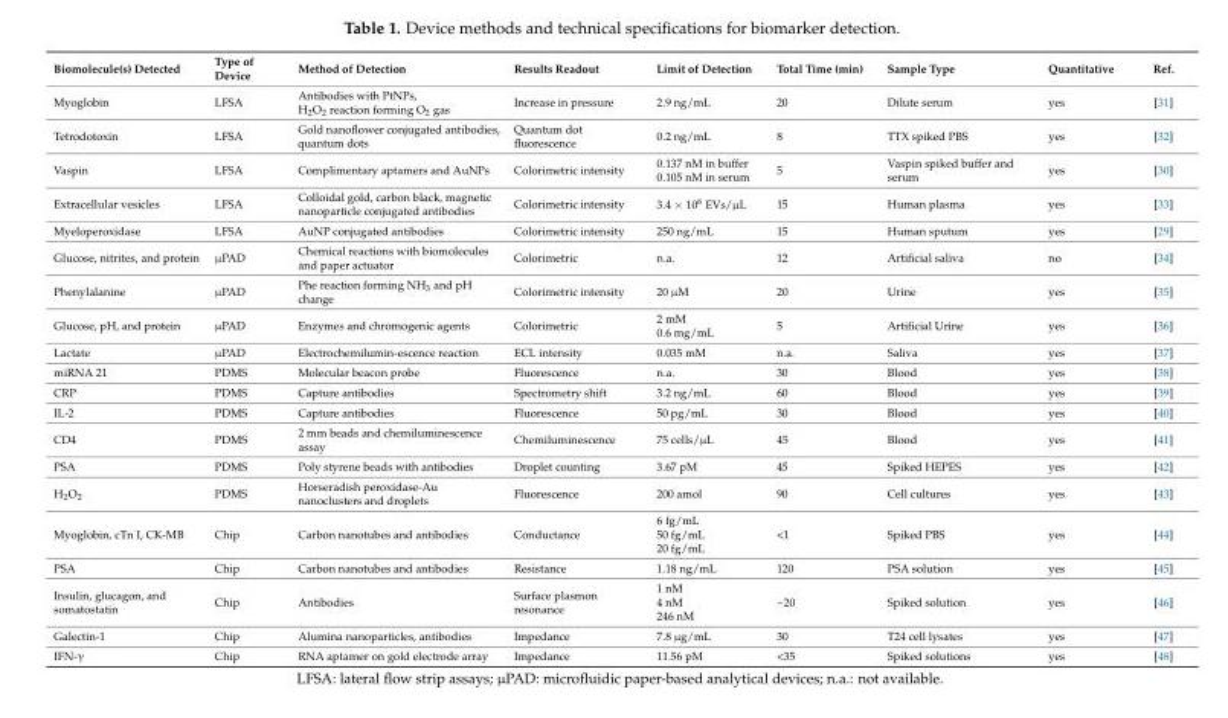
<table><thead><tr><td>Biomolecule(s) Detected</td><td>Type of Device</td><td>Method of Detection</td><td>Results Readout</td><td>Limit of Detection</td><td>Total Time (min)</td><td>Sample Type</td><td>Quantitative</td><td>Ref.</td></tr></thead><tbody><tr><td>Myoglobin</td><td>LFSA</td><td>Antibodies with PtNPs, H<sub>2</sub>O<sub>2</sub> reaction forming O<sub>2</sub> gas</td><td>Increase in pressure</td><td>2.9 ng/mL</td><td>20</td><td>Dilute serum</td><td>yes</td><td>[31]</td></tr><tr><td>Tetrodotoxin</td><td>LFSA</td><td>Gold nanoflower conjugated antibodies, quantum dots</td><td>Quantum dot fluorescence</td><td>0.2 ng/mL</td><td>8</td><td>TTX spiked PBS</td><td>yes</td><td>[32]</td></tr><tr><td>Vaspin</td><td>LFSA</td><td>Complimentary aptamers and AuNPs</td><td>Colorimetric intensity</td><td>0.137 nM in buffer 0.105 nM in serum</td><td>5</td><td>Vaspin spiked buffer and serum</td><td>yes</td><td>[30]</td></tr><tr><td>Extracellular vesicles</td><td>LFSA</td><td>Colloidal gold, carbon black, magnetic nanoparticle conjugated antibodies</td><td>Colorimetric intensity</td><td>3.4 × 10<sup>6</sup> EVs/µL</td><td>15</td><td>Human plasma</td><td>yes</td><td>[33]</td></tr><tr><td>Myeloperoxidase</td><td>LFSA</td><td>AuNP conjugated antibodies</td><td>Colorimetric intensity</td><td>250 ng/mL</td><td>15</td><td>Human sputum</td><td>yes</td><td>[29]</td></tr><tr><td>Glucose, nitrites, and protein</td><td>µPAD</td><td>Chemical reactions with biomolecules and paper actuator</td><td>Colorimetric</td><td>n.a.</td><td>12</td><td>Artificial saliva</td><td>no</td><td>[34]</td></tr><tr><td>Phenylalanine</td><td>µPAD</td><td>Phe reaction forming NH<sub>3</sub> and pH change</td><td>Colorimetric intensity</td><td>20 µM</td><td>20</td><td>Urine</td><td>yes</td><td>[35]</td></tr><tr><td>Glucose, pH, and protein</td><td>µPAD</td><td>Enzymes and chromogenic agents</td><td>Colorimetric</td><td>2 mM 0.6 mg/mL</td><td>5</td><td>Artificial Urine</td><td>yes</td><td>[36]</td></tr><tr><td>Lactate</td><td>µPAD</td><td>Electrochemilumin-escence reaction</td><td>ECL intensity</td><td>0.035 mM</td><td>n.a.</td><td>Saliva</td><td>yes</td><td>[37]</td></tr><tr><td>miRNA 21</td><td>PDMS</td><td>Molecular beacon probe</td><td>Fluorescence</td><td>n.a.</td><td>30</td><td>Blood</td><td>yes</td><td>[38]</td></tr><tr><td>CRP</td><td>PDMS</td><td>Capture antibodies</td><td>Spectrometry shift</td><td>3.2 ng/mL</td><td>60</td><td>Blood</td><td>yes</td><td>[39]</td></tr><tr><td>IL-2</td><td>PDMS</td><td>Capture antibodies</td><td>Fluorescence</td><td>50 pg/mL</td><td>30</td><td>Blood</td><td>yes</td><td>[40]</td></tr><tr><td>CD4</td><td>PDMS</td><td>2 mm beads and chemiluminescence assay</td><td>Chemiluminescence</td><td>75 cells/µL</td><td>45</td><td>Blood</td><td>yes</td><td>[41]</td></tr><tr><td>PSA</td><td>PDMS</td><td>Poly styrene beads with antibodies</td><td>Droplet counting</td><td>3.67 pM</td><td>45</td><td>Spiked HEPES</td><td>yes</td><td>[42]</td></tr><tr><td>H<sub>2</sub>O<sub>2</sub></td><td>PDMS</td><td>Horseradish peroxidase-Au nanoclusters and droplets</td><td>Fluorescence</td><td>200 amol</td><td>90</td><td>Cell cultures</td><td>yes</td><td>[43]</td></tr><tr><td>Myoglobin, cTn I, CK-MB</td><td>Chip</td><td>Carbon nanotubes and antibodies</td><td>Conductance</td><td>6 fg/mL 50 fg/mL 20 fg/mL</td><td>&lt;1</td><td>Spiked PBS</td><td>yes</td><td>[44]</td></tr><tr><td>PSA</td><td>Chip</td><td>Carbon nanotubes and antibodies</td><td>Resistance</td><td>1.18 ng/mL</td><td>120</td><td>PSA solution</td><td>yes</td><td>[45]</td></tr><tr><td>Insulin, glucagon, and somatostatin</td><td>Chip</td><td>Antibodies</td><td>Surface plasmon resonance</td><td>1 nM 4 nM 246 nM</td><td>~20</td><td>Spiked solution</td><td>yes</td><td>[46]</td></tr><tr><td>Galectin-1</td><td>Chip</td><td>Alumina nanoparticles, antibodies</td><td>Impedance</td><td>7.8 µg/mL</td><td>30</td><td>T24 cell lysates</td><td>yes</td><td>[47]</td></tr><tr><td>IFN-γ</td><td>Chip</td><td>RNA aptamer on gold electrode array</td><td>Impedance</td><td>11.56 pM</td><td>&lt;35</td><td>Spiked solutions</td><td>yes</td><td>[48]</td></tr></tbody></table>